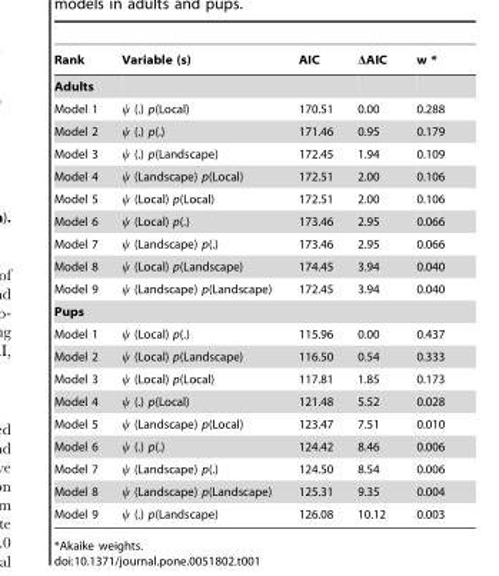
<table><thead><tr><td>Rank</td><td>Variable (s)</td><td>AIC</td><td>ΔAIC</td><td>w *</td></tr></thead><tbody><tr><td colspan="5">Adults</td></tr><tr><td>Model 1</td><td>ψ (.) p(Local)</td><td>170.51</td><td>0.00</td><td>0.288</td></tr><tr><td>Model 2</td><td>ψ (.) p(.)</td><td>171.46</td><td>0.95</td><td>0.179</td></tr><tr><td>Model 3</td><td>ψ (.) p(Landscape)</td><td>172.45</td><td>1.94</td><td>0.109</td></tr><tr><td>Model 4</td><td>ψ (Landscape) p(Local)</td><td>172.51</td><td>2.00</td><td>0.106</td></tr><tr><td>Model 5</td><td>ψ (Local) p(Local)</td><td>172.51</td><td>2.00</td><td>0.106</td></tr><tr><td>Model 6</td><td>ψ (Local) p(.)</td><td>173.46</td><td>2.95</td><td>0.066</td></tr><tr><td>Model 7</td><td>ψ (Landscape) p(.)</td><td>173.46</td><td>2.95</td><td>0.066</td></tr><tr><td>Model 8</td><td>ψ (Local) p(Landscape)</td><td>174.45</td><td>3.94</td><td>0.040</td></tr><tr><td>Model 9</td><td>ψ (Landscape) p(Landscape)</td><td>172.45</td><td>3.94</td><td>0.040</td></tr><tr><td colspan="5">Pups</td></tr><tr><td>Model 1</td><td>ψ (Local) p(.)</td><td>115.96</td><td>0.00</td><td>0.437</td></tr><tr><td>Model 2</td><td>ψ (Local) p(Landscape)</td><td>116.50</td><td>0.54</td><td>0.333</td></tr><tr><td>Model 3</td><td>ψ (Local) p(Local)</td><td>117.81</td><td>1.85</td><td>0.173</td></tr><tr><td>Model 4</td><td>ψ (.) p(Local)</td><td>121.48</td><td>5.52</td><td>0.028</td></tr><tr><td>Model 5</td><td>ψ (Landscape) p(Local)</td><td>123.47</td><td>7.51</td><td>0.010</td></tr><tr><td>Model 6</td><td>ψ (.) p(.)</td><td>124.42</td><td>8.46</td><td>0.006</td></tr><tr><td>Model 7</td><td>ψ (Landscape) p(.)</td><td>124.50</td><td>8.54</td><td>0.006</td></tr><tr><td>Model 8</td><td>ψ (Landscape) p(Landscape)</td><td>125.31</td><td>9.35</td><td>0.004</td></tr><tr><td>Model 9</td><td>ψ (.) p(Landscape)</td><td>126.08</td><td>10.12</td><td>0.003</td></tr></tbody></table>